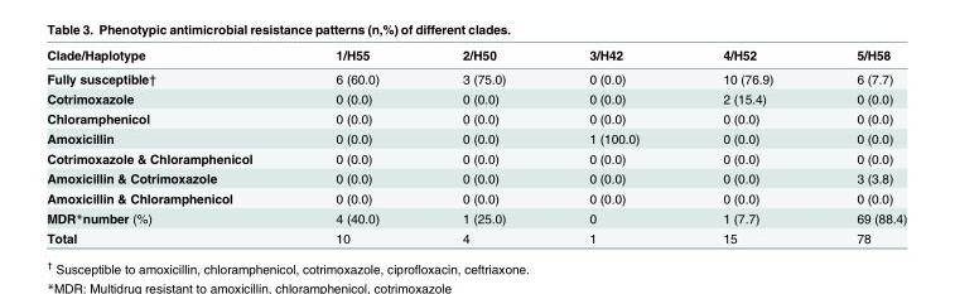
<table><thead><tr><td>Clade/Haplotype</td><td>1/H55</td><td>2/H50</td><td>3/H42</td><td>4/H52</td><td>5/H58</td></tr></thead><tbody><tr><td>Fully susceptible†</td><td>6 (60.0)</td><td>3 (75.0)</td><td>0 (0.0)</td><td>10 (76.9)</td><td>6 (7.7)</td></tr><tr><td>Cotrimoxazole</td><td>0 (0.0)</td><td>0 (0.0)</td><td>0 (0.0)</td><td>2 (15.4)</td><td>0 (0.0)</td></tr><tr><td>Chloramphenicol</td><td>0 (0.0)</td><td>0 (0.0)</td><td>0 (0.0)</td><td>0 (0.0)</td><td>0 (0.0)</td></tr><tr><td>Amoxicillin</td><td>0 (0.0)</td><td>0 (0.0)</td><td>1 (100.0)</td><td>0 (0.0)</td><td>0 (0.0)</td></tr><tr><td>Cotrimoxazole &amp; Chloramphenicol</td><td>0 (0.0)</td><td>0 (0.0)</td><td>0 (0.0)</td><td>0 (0.0)</td><td>0 (0.0)</td></tr><tr><td>Amoxicillin &amp; Cotrimoxazole</td><td>0 (0.0)</td><td>0 (0.0)</td><td>0 (0.0)</td><td>0 (0.0)</td><td>3 (3.8)</td></tr><tr><td>Amoxicillin &amp; Chloramphenicol</td><td>0 (0.0)</td><td>0 (0.0)</td><td>0 (0.0)</td><td>0 (0.0)</td><td>0 (0.0)</td></tr><tr><td>MDR*number (%)</td><td>4 (40.0)</td><td>1 (25.0)</td><td>0</td><td>1 (7.7)</td><td>69 (88.4)</td></tr><tr><td>Total</td><td>10</td><td>4</td><td>1</td><td>15</td><td>78</td></tr></tbody></table>